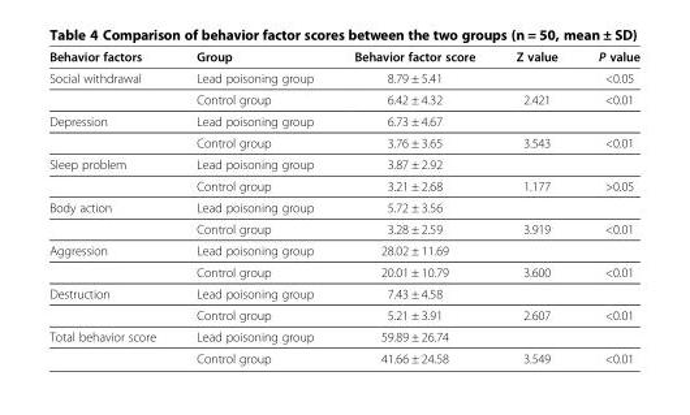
<table><thead><tr><td>Behavior factors</td><td>Group</td><td>Behavior factor score</td><td>Z value</td><td>P value</td></tr></thead><tbody><tr><td rowspan="2">Social withdrawal</td><td>Lead poisoning group</td><td>8.79 ± 5.41</td><td></td><td>&lt;0.05</td></tr><tr><td>Control group</td><td>6.42 ± 4.32</td><td>2.421</td><td>&lt;0.01</td></tr><tr><td rowspan="2">Depression</td><td>Lead poisoning group</td><td>6.73 ± 4.67</td><td></td><td></td></tr><tr><td>Control group</td><td>3.76 ± 3.65</td><td>3.543</td><td>&lt;0.01</td></tr><tr><td rowspan="2">Sleep problem</td><td>Lead poisoning group</td><td>3.87 ± 2.92</td><td></td><td></td></tr><tr><td>Control group</td><td>3.21 ± 2.68</td><td>1.177</td><td>&gt;0.05</td></tr><tr><td rowspan="2">Body action</td><td>Lead poisoning group</td><td>5.72 ± 3.56</td><td></td><td></td></tr><tr><td>Control group</td><td>3.28 ± 2.59</td><td>3.919</td><td>&lt;0.01</td></tr><tr><td rowspan="2">Aggression</td><td>Lead poisoning group</td><td>28.02 ± 11.69</td><td></td><td></td></tr><tr><td>Control group</td><td>20.01 ± 10.79</td><td>3.600</td><td>&lt;0.01</td></tr><tr><td rowspan="2">Destruction</td><td>Lead poisoning group</td><td>7.43 ± 4.58</td><td></td><td></td></tr><tr><td>Control group</td><td>5.21 ± 3.91</td><td>2.607</td><td>&lt;0.01</td></tr><tr><td rowspan="2">Total behavior score</td><td>Lead poisoning group</td><td>59.89 ± 26.74</td><td></td><td></td></tr><tr><td>Control group</td><td>41.66 ± 24.58</td><td>3.549</td><td>&lt;0.01</td></tr></tbody></table>